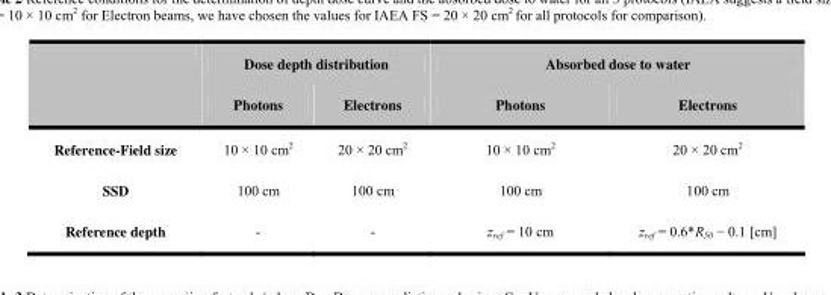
<table><thead><tr><td rowspan="2"></td><td colspan="2">Dose depth distribution</td><td colspan="2">Absorbed dose to water</td></tr><tr><td>Photons</td><td>Electrons</td><td>Photons</td><td>Electrons</td></tr></thead><tbody><tr><td>Reference-Field size</td><td>10 × 10 cm<sup>2</sup></td><td>20 × 20 cm<sup>2</sup></td><td>10 × 10 cm<sup>2</sup></td><td>20 × 20 cm<sup>2</sup></td></tr><tr><td>SSD</td><td>100 cm</td><td>100 cm</td><td>100 cm</td><td>100 cm</td></tr><tr><td>Reference depth</td><td>-</td><td>-</td><td>z<sub>ref</sub> = 10 cm</td><td>z<sub>ref</sub> = 0.6*R<sub>50</sub> − 0.1 [cm]</td></tr></tbody></table>